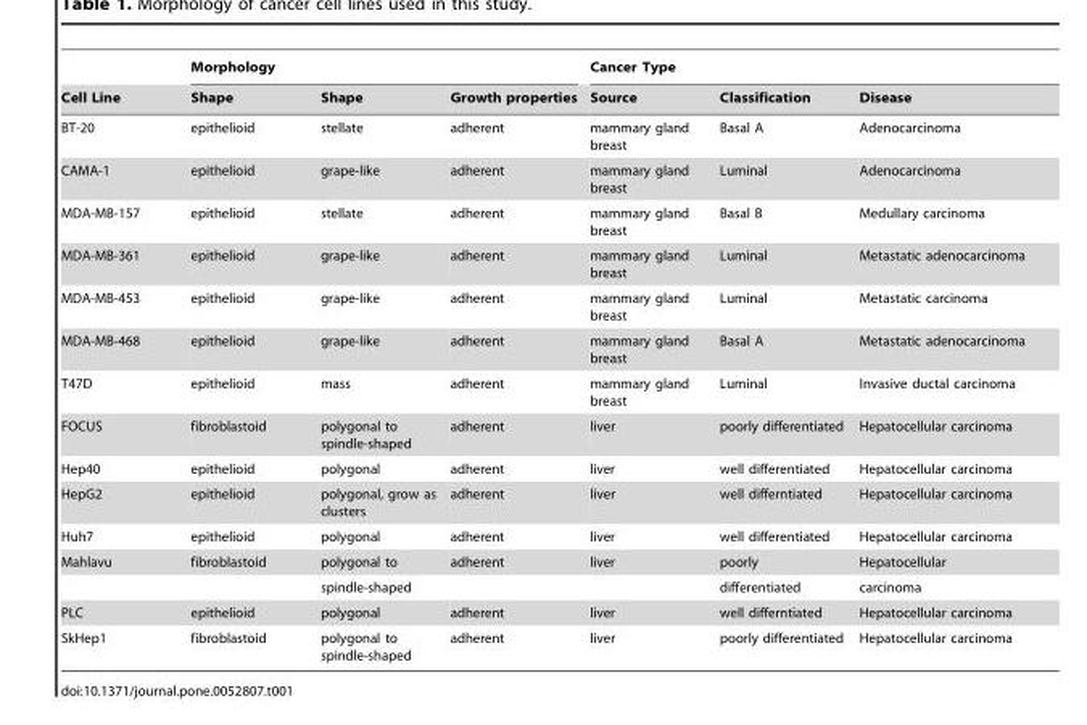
<table><thead><tr><td rowspan="2">Cell Line</td><td colspan="3">Morphology</td><td colspan="3">Cancer Type</td></tr><tr><td>Shape</td><td>Shape</td><td>Growth properties</td><td>Source</td><td>Classification</td><td>Disease</td></tr></thead><tbody><tr><td>BT-20</td><td>epithelioid</td><td>stellate</td><td>adherent</td><td>mammary gland breast</td><td>Basal A</td><td>Adenocarcinoma</td></tr><tr><td>CAMA-1</td><td>epithelioid</td><td>grape-like</td><td>adherent</td><td>mammary gland breast</td><td>Luminal</td><td>Adenocarcinoma</td></tr><tr><td>MDA-MB-157</td><td>epithelioid</td><td>stellate</td><td>adherent</td><td>mammary gland breast</td><td>Basal B</td><td>Medullary carcinoma</td></tr><tr><td>MDA-MB-361</td><td>epithelioid</td><td>grape-like</td><td>adherent</td><td>mammary gland breast</td><td>Luminal</td><td>Metastatic adenocarcinoma</td></tr><tr><td>MDA-MB-453</td><td>epithelioid</td><td>grape-like</td><td>adherent</td><td>mammary gland breast</td><td>Luminal</td><td>Metastatic carcinoma</td></tr><tr><td>MDA-MB-468</td><td>epithelioid</td><td>grape-like</td><td>adherent</td><td>mammary gland breast</td><td>Basal A</td><td>Metastatic adenocarcinoma</td></tr><tr><td>T47D</td><td>epithelioid</td><td>mass</td><td>adherent</td><td>mammary gland breast</td><td>Luminal</td><td>Invasive ductal carcinoma</td></tr><tr><td>FOCUS</td><td>fibroblastoid</td><td>polygonal to spindle-shaped</td><td>adherent</td><td>liver</td><td>poorly differentiated</td><td>Hepatocellular carcinoma</td></tr><tr><td>Hep40</td><td>epithelioid</td><td>polygonal</td><td>adherent</td><td>liver</td><td>well differentiated</td><td>Hepatocellular carcinoma</td></tr><tr><td>HepG2</td><td>epithelioid</td><td>polygonal, grow as clusters</td><td>adherent</td><td>liver</td><td>well differntiated</td><td>Hepatocellular carcinoma</td></tr><tr><td>Huh7</td><td>epithelioid</td><td>polygonal</td><td>adherent</td><td>liver</td><td>well differentiated</td><td>Hepatocellular carcinoma</td></tr><tr><td rowspan="2">Mahlavu</td><td>fibroblastoid</td><td>polygonal to</td><td>adherent</td><td>liver</td><td>poorly</td><td>Hepatocellular</td></tr><tr><td></td><td>spindle-shaped</td><td></td><td></td><td>differentiated</td><td>carcinoma</td></tr><tr><td>PLC</td><td>epithelioid</td><td>polygonal</td><td>adherent</td><td>liver</td><td>well differntiated</td><td>Hepatocellular carcinoma</td></tr><tr><td>SkHep1</td><td>fibroblastoid</td><td>polygonal to spindle-shaped</td><td>adherent</td><td>liver</td><td>poorly differentiated</td><td>Hepatocellular carcinoma</td></tr></tbody></table>